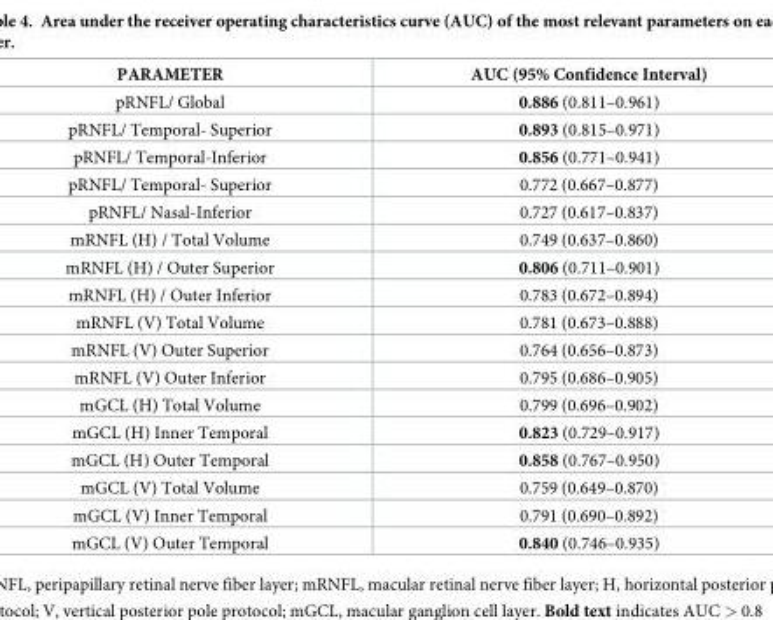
<table><thead><tr><td>PARAMETER</td><td>AUC (95% Confidence Interval)</td></tr></thead><tbody><tr><td>pRNFL/ Global</td><td>0.886 (0.811–0.961)</td></tr><tr><td>pRNFL/ Temporal- Superior</td><td>0.893 (0.815–0.971)</td></tr><tr><td>pRNFL/ Temporal-Inferior</td><td>0.856 (0.771–0.941)</td></tr><tr><td>pRNFL/ Temporal- Superior</td><td>0.772 (0.667–0.877)</td></tr><tr><td>pRNFL/ Nasal-Inferior</td><td>0.727 (0.617–0.837)</td></tr><tr><td>mRNFL (H) / Total Volume</td><td>0.749 (0.637–0.860)</td></tr><tr><td>mRNFL (H) / Outer Superior</td><td>0.806 (0.711–0.901)</td></tr><tr><td>mRNFL (H) / Outer Inferior</td><td>0.783 (0.672–0.894)</td></tr><tr><td>mRNFL (V) Total Volume</td><td>0.781 (0.673–0.888)</td></tr><tr><td>mRNFL (V) Outer Superior</td><td>0.764 (0.656–0.873)</td></tr><tr><td>mRNFL (V) Outer Inferior</td><td>0.795 (0.686–0.905)</td></tr><tr><td>mGCL (H) Total Volume</td><td>0.799 (0.696–0.902)</td></tr><tr><td>mGCL (H) Inner Temporal</td><td>0.823 (0.729–0.917)</td></tr><tr><td>mGCL (H) Outer Temporal</td><td>0.858 (0.767–0.950)</td></tr><tr><td>mGCL (V) Total Volume</td><td>0.759 (0.649–0.870)</td></tr><tr><td>mGCL (V) Inner Temporal</td><td>0.791 (0.690–0.892)</td></tr><tr><td>mGCL (V) Outer Temporal</td><td>0.840 (0.746–0.935)</td></tr></tbody></table>